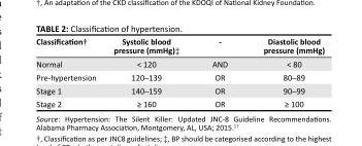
<table><thead><tr><td>Classification†</td><td>Systolic blood pressure (mmHg)‡</td><td>-</td><td>Diastolic blood pressure (mmHg)</td></tr></thead><tbody><tr><td>Normal</td><td>&lt; 120</td><td>AND</td><td>&lt; 80</td></tr><tr><td>Pre-hypertension</td><td>120─139</td><td>OR</td><td>80─89</td></tr><tr><td>Stage 1</td><td>140─159</td><td>OR</td><td>90─99</td></tr><tr><td>Stage 2</td><td>≥ 160</td><td>OR</td><td>≥ 100</td></tr></tbody></table>